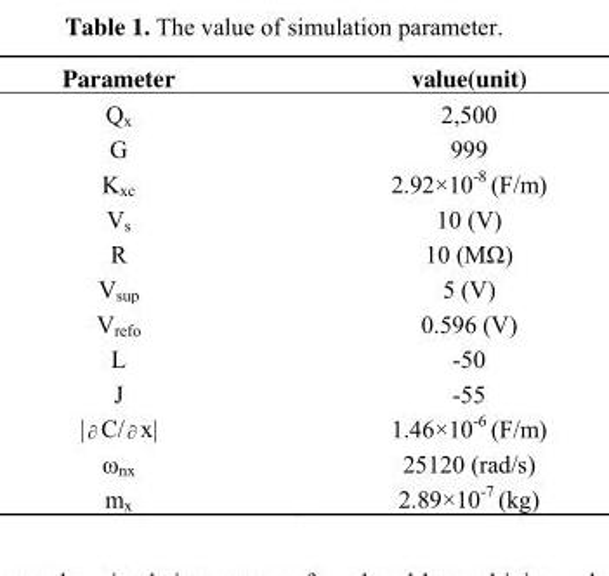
<table><thead><tr><td>Parameter</td><td>value(unit)</td></tr></thead><tbody><tr><td>Qx</td><td>2,500</td></tr><tr><td>G</td><td>999</td></tr><tr><td>Kxc</td><td>2.92×10<sup>-8</sup> (F/m)</td></tr><tr><td>Vs</td><td>10 (V)</td></tr><tr><td>R</td><td>10 (MΩ)</td></tr><tr><td>Vsup</td><td>5 (V)</td></tr><tr><td>Vrefo</td><td>0.596 (V)</td></tr><tr><td>L</td><td>-50</td></tr><tr><td>J</td><td>-55</td></tr><tr><td>|∂ C/∂ x|</td><td>1.46×10<sup>-6</sup> (F/m)</td></tr><tr><td>ωnx</td><td>25120 (rad/s)</td></tr><tr><td>mx</td><td>2.89×10<sup>-7</sup> (kg)</td></tr></tbody></table>